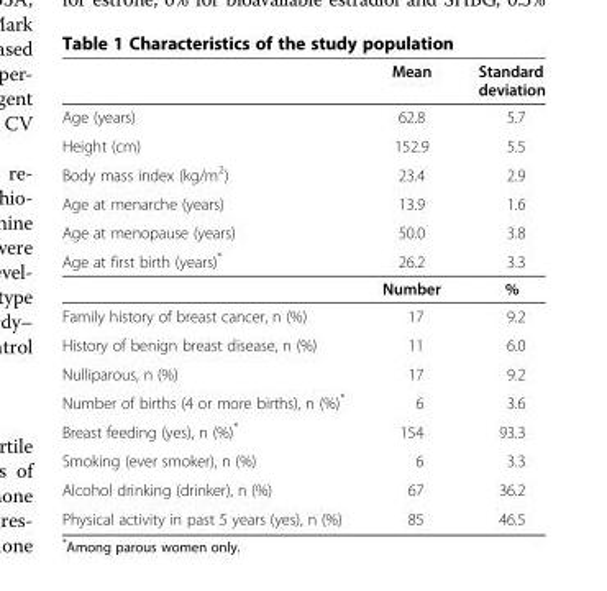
<table><thead><tr><td></td><td>Mean</td><td>Standard deviation</td></tr></thead><tbody><tr><td>Age (years)</td><td>62.8</td><td>5.7</td></tr><tr><td>Height (cm)</td><td>152.9</td><td>5.5</td></tr><tr><td>Body mass index (kg/m<sup>2</sup>)</td><td>23.4</td><td>2.9</td></tr><tr><td>Age at menarche (years)</td><td>13.9</td><td>1.6</td></tr><tr><td>Age at menopause (years)</td><td>50.0</td><td>3.8</td></tr><tr><td rowspan="2">Age at first birth (years)*</td><td>26.2</td><td>3.3</td></tr><tr><td>Number</td><td>%</td></tr><tr><td>Family history of breast cancer, n (%)</td><td>17</td><td>9.2</td></tr><tr><td>History of benign breast disease, n (%)</td><td>11</td><td>6.0</td></tr><tr><td>Nulliparous, n (%)</td><td>17</td><td>9.2</td></tr><tr><td>Number of births (4 or more births), n (%)*</td><td>6</td><td>3.6</td></tr><tr><td>Breast feeding (yes), n (%)*</td><td>154</td><td>93.3</td></tr><tr><td>Smoking (ever smoker), n (%)</td><td>6</td><td>3.3</td></tr><tr><td>Alcohol drinking (drinker), n (%)</td><td>67</td><td>36.2</td></tr><tr><td>Physical activity in past 5 years (yes), n (%)</td><td>85</td><td>46.5</td></tr></tbody></table>